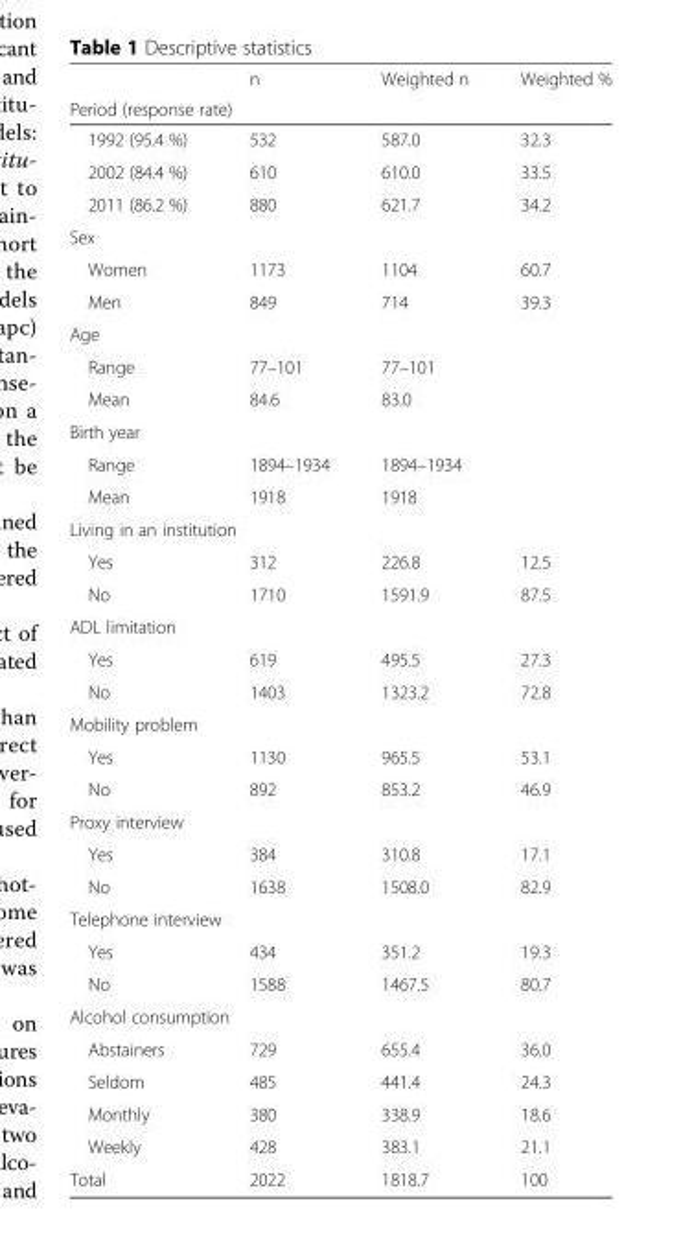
<table><thead><tr><td></td><td>n</td><td rowspan="2">Weighted n</td><td rowspan="2">Weighted %</td></tr><tr><td colspan="2">Period (response rate)</td></tr></thead><tbody><tr><td>1992 (95.4 %)</td><td>532</td><td>587.0</td><td>32.3</td></tr><tr><td>2002 (84.4 %)</td><td>610</td><td>610.0</td><td>33.5</td></tr><tr><td>2011 (86.2 %)</td><td>880</td><td>621.7</td><td>34.2</td></tr><tr><td colspan="4">Sex</td></tr><tr><td>Women</td><td>1173</td><td>1104</td><td>60.7</td></tr><tr><td>Men</td><td>849</td><td>714</td><td>39.3</td></tr><tr><td colspan="4">Age</td></tr><tr><td>Range</td><td>77–101</td><td>77–101</td><td></td></tr><tr><td>Mean</td><td>84.6</td><td>83.0</td><td></td></tr><tr><td colspan="4">Birth year</td></tr><tr><td>Range</td><td>1894–1934</td><td>1894–1934</td><td></td></tr><tr><td>Mean</td><td>1918</td><td>1918</td><td></td></tr><tr><td colspan="4">Living in an institution</td></tr><tr><td>Yes</td><td>312</td><td>226.8</td><td>12.5</td></tr><tr><td>No</td><td>1710</td><td>1591.9</td><td>87.5</td></tr><tr><td colspan="4">ADL limitation</td></tr><tr><td>Yes</td><td>619</td><td>495.5</td><td>27.3</td></tr><tr><td>No</td><td>1403</td><td>1323.2</td><td>72.8</td></tr><tr><td colspan="4">Mobility problem</td></tr><tr><td>Yes</td><td>1130</td><td>965.5</td><td>53.1</td></tr><tr><td>No</td><td>892</td><td>853.2</td><td>46.9</td></tr><tr><td colspan="4">Proxy interview</td></tr><tr><td>Yes</td><td>384</td><td>310.8</td><td>17.1</td></tr><tr><td>No</td><td>1638</td><td>1508.0</td><td>82.9</td></tr><tr><td colspan="4">Telephone interview</td></tr><tr><td>Yes</td><td>434</td><td>351.2</td><td>19.3</td></tr><tr><td>No</td><td>1588</td><td>1467.5</td><td>80.7</td></tr><tr><td colspan="4">Alcohol consumption</td></tr><tr><td>Abstainers</td><td>729</td><td>655.4</td><td>36.0</td></tr><tr><td>Seldom</td><td>485</td><td>441.4</td><td>24.3</td></tr><tr><td>Monthly</td><td>380</td><td>338.9</td><td>18.6</td></tr><tr><td>Weekly</td><td>428</td><td>383.1</td><td>21.1</td></tr><tr><td>Total</td><td>2022</td><td>1818.7</td><td>100</td></tr></tbody></table>